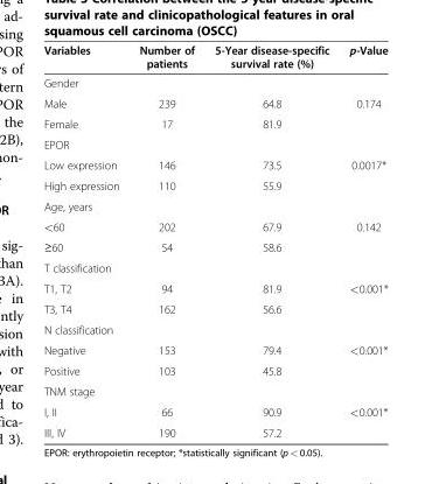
<table><thead><tr><td>Variables</td><td>Number of patients</td><td>5-Year disease-specific survival rate (%)</td><td>p-Value</td></tr></thead><tbody><tr><td colspan="4">Gender</td></tr><tr><td>Male</td><td>239</td><td>64.8</td><td>0.174</td></tr><tr><td>Female</td><td>17</td><td>81.9</td><td></td></tr><tr><td colspan="4">EPOR</td></tr><tr><td>Low expression</td><td>146</td><td>73.5</td><td>0.0017*</td></tr><tr><td>High expression</td><td>110</td><td>55.9</td><td></td></tr><tr><td colspan="4">Age, years</td></tr><tr><td>&lt;60</td><td>202</td><td>67.9</td><td>0.142</td></tr><tr><td>≥60</td><td>54</td><td>58.6</td><td></td></tr><tr><td colspan="4">T classification</td></tr><tr><td>T1, T2</td><td>94</td><td>81.9</td><td>&lt;0.001*</td></tr><tr><td>T3, T4</td><td>162</td><td>56.6</td><td></td></tr><tr><td colspan="4">N classification</td></tr><tr><td>Negative</td><td>153</td><td>79.4</td><td>&lt;0.001*</td></tr><tr><td>Positive</td><td>103</td><td>45.8</td><td></td></tr><tr><td colspan="4">TNM stage</td></tr><tr><td>I, II</td><td>66</td><td>90.9</td><td>&lt;0.001*</td></tr><tr><td>III, IV</td><td>190</td><td>57.2</td><td></td></tr></tbody></table>